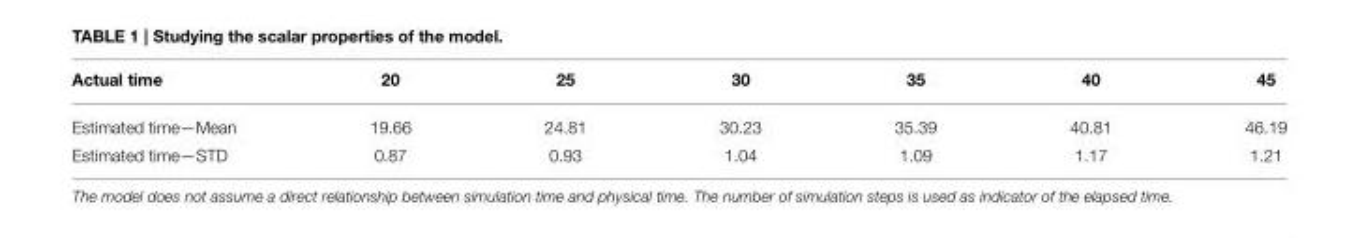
<table><thead><tr><td>Actual time</td><td>20</td><td>25</td><td>30</td><td>35</td><td>40</td><td>45</td></tr></thead><tbody><tr><td>Estimated time—Mean</td><td>19.66</td><td>24.81</td><td>30.23</td><td>35.39</td><td>40.81</td><td>46.19</td></tr><tr><td>Estimated time—STD</td><td>0.87</td><td>0.93</td><td>1.04</td><td>1.09</td><td>1.17</td><td>1.21</td></tr></tbody></table>